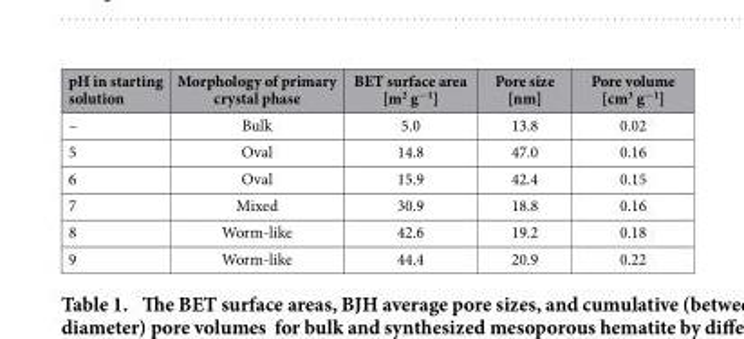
<table><thead><tr><td>pH in starting solution</td><td>Morphology of primary crystal phase</td><td>BET surface area [m<sup>2</sup> g<sup>−1</sup>]</td><td>Pore size [nm]</td><td>Pore volume [cm<sup>3</sup> g<sup>−1</sup>]</td></tr></thead><tbody><tr><td>–</td><td>Bulk</td><td>5.0</td><td>13.8</td><td>0.02</td></tr><tr><td>5</td><td>Oval</td><td>14.8</td><td>47.0</td><td>0.16</td></tr><tr><td>6</td><td>Oval</td><td>15.9</td><td>42.4</td><td>0.15</td></tr><tr><td>7</td><td>Mixed</td><td>30.9</td><td>18.8</td><td>0.16</td></tr><tr><td>8</td><td>Worm-like</td><td>42.6</td><td>19.2</td><td>0.18</td></tr><tr><td>9</td><td>Worm-like</td><td>44.4</td><td>20.9</td><td>0.22</td></tr></tbody></table>